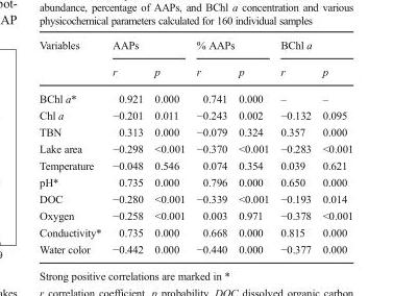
<table><thead><tr><td rowspan="2">Variables</td><td colspan="2">AAPs</td><td colspan="2">% AAPs</td><td colspan="2">BChl a</td></tr><tr><td>r</td><td>p</td><td>r</td><td>p</td><td>r</td><td>p</td></tr></thead><tbody><tr><td>BChl a*</td><td>0.921</td><td>0.000</td><td>0.741</td><td>0.000</td><td>–</td><td>–</td></tr><tr><td>Chl a</td><td>−0.201</td><td>0.011</td><td>−0.243</td><td>0.002</td><td>−0.132</td><td>0.095</td></tr><tr><td>TBN</td><td>0.313</td><td>0.000</td><td>−0.079</td><td>0.324</td><td>0.357</td><td>0.000</td></tr><tr><td>Lake area</td><td>−0.298</td><td>&lt;0.001</td><td>−0.370</td><td>&lt;0.001</td><td>−0.283</td><td>&lt;0.001</td></tr><tr><td>Temperature</td><td>−0.048</td><td>0.546</td><td>0.074</td><td>0.354</td><td>0.039</td><td>0.621</td></tr><tr><td>pH*</td><td>0.735</td><td>0.000</td><td>0.796</td><td>0.000</td><td>0.650</td><td>0.000</td></tr><tr><td>DOC</td><td>−0.280</td><td>&lt;0.001</td><td>−0.339</td><td>&lt;0.001</td><td>−0.193</td><td>0.014</td></tr><tr><td>Oxygen</td><td>−0.258</td><td>&lt;0.001</td><td>0.003</td><td>0.971</td><td>−0.378</td><td>&lt;0.001</td></tr><tr><td>Conductivity*</td><td>0.735</td><td>0.000</td><td>0.668</td><td>0.000</td><td>0.815</td><td>0.000</td></tr><tr><td>Water color</td><td>−0.442</td><td>0.000</td><td>−0.440</td><td>0.000</td><td>−0.377</td><td>0.000</td></tr></tbody></table>